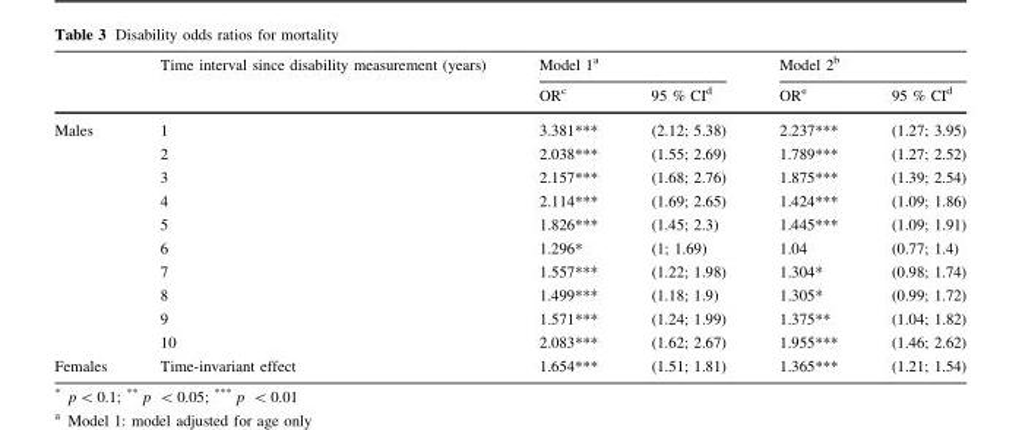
<table><thead><tr><td rowspan="2"></td><td rowspan="2">Time interval since disability measurement (years)</td><td colspan="2">Model 1<sup>a</sup></td><td colspan="2">Model 2<sup>b</sup></td></tr><tr><td>OR<sup>c</sup></td><td>95 % CI<sup>d</sup></td><td>OR<sup>e</sup></td><td>95 % CI<sup>d</sup></td></tr></thead><tbody><tr><td rowspan="10">Males</td><td>1</td><td>3.381***</td><td>(2.12; 5.38)</td><td>2.237***</td><td>(1.27; 3.95)</td></tr><tr><td>2</td><td>2.038***</td><td>(1.55; 2.69)</td><td>1.789***</td><td>(1.27; 2.52)</td></tr><tr><td>3</td><td>2.157***</td><td>(1.68; 2.76)</td><td>1.875***</td><td>(1.39; 2.54)</td></tr><tr><td>4</td><td>2.114***</td><td>(1.69; 2.65)</td><td>1.424***</td><td>(1.09; 1.86)</td></tr><tr><td>5</td><td>1.826***</td><td>(1.45; 2.3)</td><td>1.445***</td><td>(1.09; 1.91)</td></tr><tr><td>6</td><td>1.296*</td><td>(1; 1.69)</td><td>1.04</td><td>(0.77; 1.4)</td></tr><tr><td>7</td><td>1.557***</td><td>(1.22; 1.98)</td><td>1.304*</td><td>(0.98; 1.74)</td></tr><tr><td>8</td><td>1.499***</td><td>(1.18; 1.9)</td><td>1.305*</td><td>(0.99; 1.72)</td></tr><tr><td>9</td><td>1.571***</td><td>(1.24; 1.99)</td><td>1.375**</td><td>(1.04; 1.82)</td></tr><tr><td>10</td><td>2.083***</td><td>(1.62; 2.67)</td><td>1.955***</td><td>(1.46; 2.62)</td></tr><tr><td>Females</td><td>Time-invariant effect</td><td>1.654***</td><td>(1.51; 1.81)</td><td>1.365***</td><td>(1.21; 1.54)</td></tr></tbody></table>